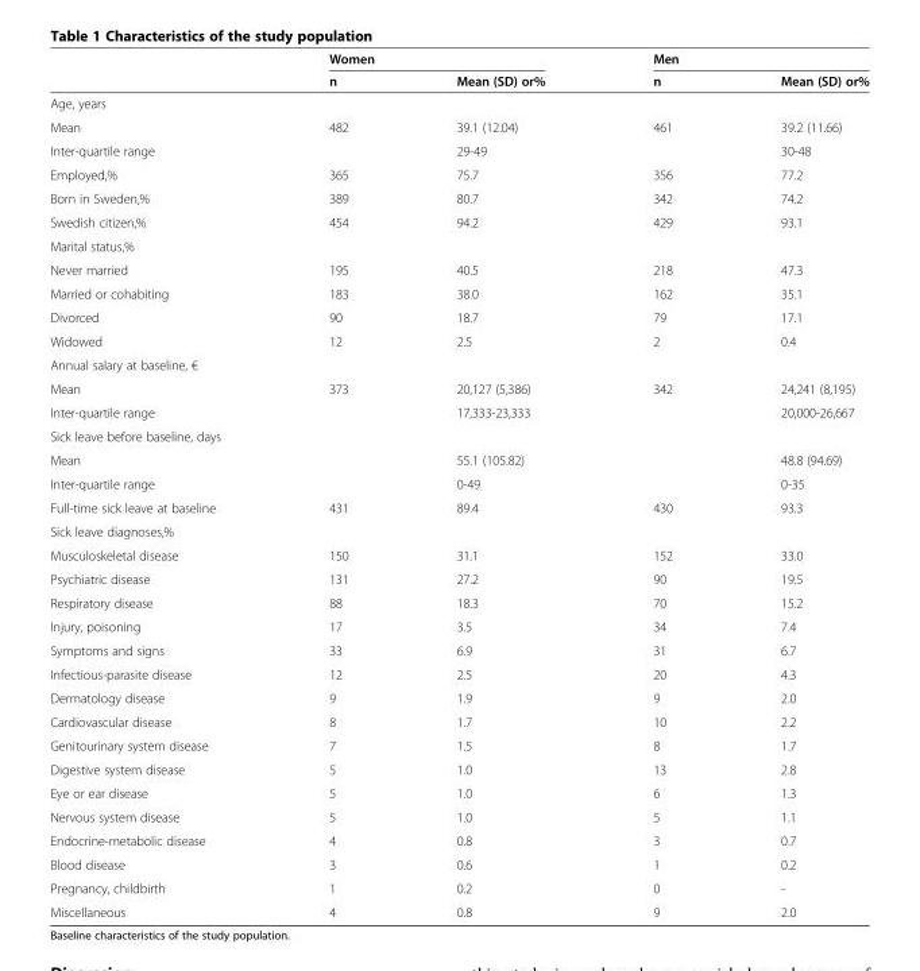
<table><thead><tr><td rowspan="2"></td><td colspan="2">Women</td><td colspan="2">Men</td></tr><tr><td>n</td><td>Mean (SD) or%</td><td>n</td><td>Mean (SD) or%</td></tr></thead><tbody><tr><td colspan="5">Age, years</td></tr><tr><td>Mean</td><td>482</td><td>39.1 (12.04)</td><td>461</td><td>39.2 (11.66)</td></tr><tr><td>Inter-quartile range</td><td></td><td>29-49</td><td></td><td>30-48</td></tr><tr><td>Employed,%</td><td>365</td><td>75.7</td><td>356</td><td>77.2</td></tr><tr><td>Born in Sweden,%</td><td>389</td><td>80.7</td><td>342</td><td>74.2</td></tr><tr><td>Swedish citizen,%</td><td>454</td><td>94.2</td><td>429</td><td>93.1</td></tr><tr><td colspan="5">Marital status,%</td></tr><tr><td>Never married</td><td>195</td><td>40.5</td><td>218</td><td>47.3</td></tr><tr><td>Married or cohabiting</td><td>183</td><td>38.0</td><td>162</td><td>35.1</td></tr><tr><td>Divorced</td><td>90</td><td>18.7</td><td>79</td><td>17.1</td></tr><tr><td>Widowed</td><td>12</td><td>2.5</td><td>2</td><td>0.4</td></tr><tr><td colspan="5">Annual salary at baseline, €</td></tr><tr><td>Mean</td><td>373</td><td>20,127 (5,386)</td><td>342</td><td>24,241 (8,195)</td></tr><tr><td>Inter-quartile range</td><td></td><td>17,333-23,333</td><td></td><td>20,000-26,667</td></tr><tr><td colspan="5">Sick leave before baseline, days</td></tr><tr><td>Mean</td><td></td><td>55.1 (105.82)</td><td></td><td>48.8 (94.69)</td></tr><tr><td>Inter-quartile range</td><td></td><td>0-49</td><td></td><td>0-35</td></tr><tr><td>Full-time sick leave at baseline</td><td>431</td><td>89.4</td><td>430</td><td>93.3</td></tr><tr><td colspan="5">Sick leave diagnoses,%</td></tr><tr><td>Musculoskeletal disease</td><td>150</td><td>31.1</td><td>152</td><td>33.0</td></tr><tr><td>Psychiatric disease</td><td>131</td><td>27.2</td><td>90</td><td>19.5</td></tr><tr><td>Respiratory disease</td><td>88</td><td>18.3</td><td>70</td><td>15.2</td></tr><tr><td>Injury, poisoning</td><td>17</td><td>3.5</td><td>34</td><td>7.4</td></tr><tr><td>Symptoms and signs</td><td>33</td><td>6.9</td><td>31</td><td>6.7</td></tr><tr><td>Infectious-parasite disease</td><td>12</td><td>2.5</td><td>20</td><td>4.3</td></tr><tr><td>Dermatology disease</td><td>9</td><td>1.9</td><td>9</td><td>2.0</td></tr><tr><td>Cardiovascular disease</td><td>8</td><td>1.7</td><td>10</td><td>2.2</td></tr><tr><td>Genitourinary system disease</td><td>7</td><td>1.5</td><td>8</td><td>1.7</td></tr><tr><td>Digestive system disease</td><td>5</td><td>1.0</td><td>13</td><td>2.8</td></tr><tr><td>Eye or ear disease</td><td>5</td><td>1.0</td><td>6</td><td>1.3</td></tr><tr><td>Nervous system disease</td><td>5</td><td>1.0</td><td>5</td><td>1.1</td></tr><tr><td>Endocrine-metabolic disease</td><td>4</td><td>0.8</td><td>3</td><td>0.7</td></tr><tr><td>Blood disease</td><td>3</td><td>0.6</td><td>1</td><td>0.2</td></tr><tr><td>Pregnancy, childbirth</td><td>1</td><td>0.2</td><td>0</td><td>-</td></tr><tr><td>Miscellaneous</td><td>4</td><td>0.8</td><td>9</td><td>2.0</td></tr></tbody></table>